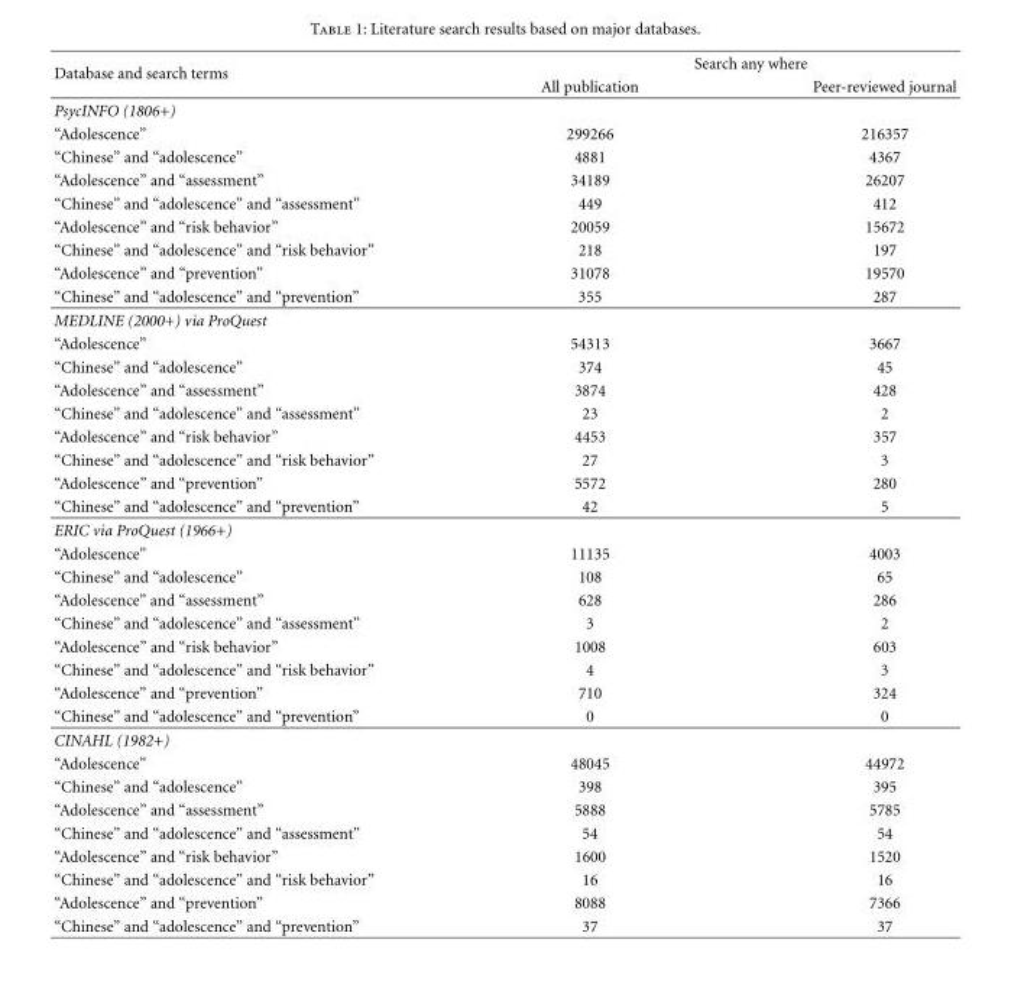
<table><thead><tr><td rowspan="2">Database and search terms</td><td colspan="2">Search any where</td></tr><tr><td>All publication</td><td>Peer-reviewed journal</td></tr></thead><tbody><tr><td colspan="3">PsycINFO (1806+)</td></tr><tr><td>“Adolescence”</td><td>299266</td><td>216357</td></tr><tr><td>“Chinese” and “adolescence”</td><td>4881</td><td>4367</td></tr><tr><td>“Adolescence” and “assessment”</td><td>34189</td><td>26207</td></tr><tr><td>“Chinese” and “adolescence” and “assessment”</td><td>449</td><td>412</td></tr><tr><td>“Adolescence” and “risk behavior”</td><td>20059</td><td>15672</td></tr><tr><td>“Chinese” and “adolescence” and “risk behavior”</td><td>218</td><td>197</td></tr><tr><td>“Adolescence” and “prevention”</td><td>31078</td><td>19570</td></tr><tr><td>“Chinese” and “adolescence” and “prevention”</td><td>355</td><td>287</td></tr><tr><td colspan="3">MEDLINE (2000+) via ProQuest</td></tr><tr><td>“Adolescence”</td><td>54313</td><td>3667</td></tr><tr><td>“Chinese” and “adolescence”</td><td>374</td><td>45</td></tr><tr><td>“Adolescence” and “assessment”</td><td>3874</td><td>428</td></tr><tr><td>“Chinese” and “adolescence” and “assessment”</td><td>23</td><td>2</td></tr><tr><td>“Adolescence” and “risk behavior”</td><td>4453</td><td>357</td></tr><tr><td>“Chinese” and “adolescence” and “risk behavior”</td><td>27</td><td>3</td></tr><tr><td>“Adolescence” and “prevention”</td><td>5572</td><td>280</td></tr><tr><td>“Chinese” and “adolescence” and “prevention”</td><td>42</td><td>5</td></tr><tr><td colspan="3">ERIC via ProQuest (1966+)</td></tr><tr><td>“Adolescence”</td><td>11135</td><td>4003</td></tr><tr><td>“Chinese” and “adolescence”</td><td>108</td><td>65</td></tr><tr><td>“Adolescence” and “assessment”</td><td>628</td><td>286</td></tr><tr><td>“Chinese” and “adolescence” and “assessment”</td><td>3</td><td>2</td></tr><tr><td>“Adolescence” and “risk behavior”</td><td>1008</td><td>603</td></tr><tr><td>“Chinese” and “adolescence” and “risk behavior”</td><td>4</td><td>3</td></tr><tr><td>“Adolescence” and “prevention”</td><td>710</td><td>324</td></tr><tr><td>“Chinese” and “adolescence” and “prevention”</td><td>0</td><td>0</td></tr><tr><td colspan="3">CINAHL (1982+)</td></tr><tr><td>“Adolescence”</td><td>48045</td><td>44972</td></tr><tr><td>“Chinese” and “adolescence”</td><td>398</td><td>395</td></tr><tr><td>“Adolescence” and “assessment”</td><td>5888</td><td>5785</td></tr><tr><td>“Chinese” and “adolescence” and “assessment”</td><td>54</td><td>54</td></tr><tr><td>“Adolescence” and “risk behavior”</td><td>1600</td><td>1520</td></tr><tr><td>“Chinese” and “adolescence” and “risk behavior”</td><td>16</td><td>16</td></tr><tr><td>“Adolescence” and “prevention”</td><td>8088</td><td>7366</td></tr><tr><td>“Chinese” and “adolescence” and “prevention”</td><td>37</td><td>37</td></tr></tbody></table>